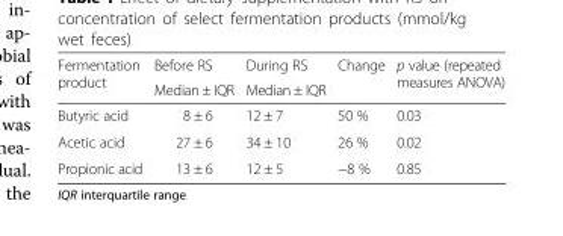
<table><thead><tr><td rowspan="2">Fermentation product</td><td rowspan="2">Before RS Median ± IQR</td><td rowspan="2">During RS Median ± IQR</td><td rowspan="2">Change</td><td rowspan="2">p value (repeated measures ANOVA)</td></tr><tr></tr></thead><tbody><tr><td>Butyric acid</td><td>8 ± 6</td><td>12 ± 7</td><td>50 %</td><td>0.03</td></tr><tr><td>Acetic acid</td><td>27 ± 6</td><td>34 ± 10</td><td>26 %</td><td>0.02</td></tr><tr><td>Propionic acid</td><td>13 ± 6</td><td>12 ± 5</td><td>−8 %</td><td>0.85</td></tr></tbody></table>